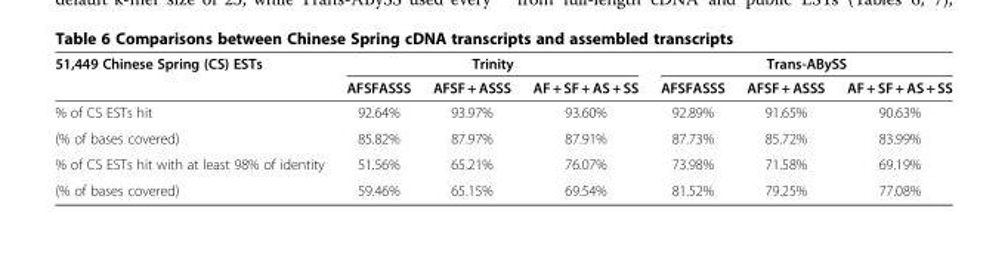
<table><thead><tr><td rowspan="2">51,449 Chinese Spring (CS) ESTs</td><td colspan="3">Trinity</td><td colspan="3">Trans-ABySS</td></tr><tr><td>AFSFASSS</td><td>AFSF + ASSS</td><td>AF + SF + AS + SS</td><td>AFSFASSS</td><td>AFSF + ASSS</td><td>AF + SF + AS + SS</td></tr></thead><tbody><tr><td>% of CS ESTs hit</td><td>92.64%</td><td>93.97%</td><td>93.60%</td><td>92.89%</td><td>91.65%</td><td>90.63%</td></tr><tr><td>(% of bases covered)</td><td>85.82%</td><td>87.97%</td><td>87.91%</td><td>87.73%</td><td>85.72%</td><td>83.99%</td></tr><tr><td>% of CS ESTs hit with at least 98% of identity</td><td>51.56%</td><td>65.21%</td><td>76.07%</td><td>73.98%</td><td>71.58%</td><td>69.19%</td></tr><tr><td>(% of bases covered)</td><td>59.46%</td><td>65.15%</td><td>69.54%</td><td>81.52%</td><td>79.25%</td><td>77.08%</td></tr></tbody></table>